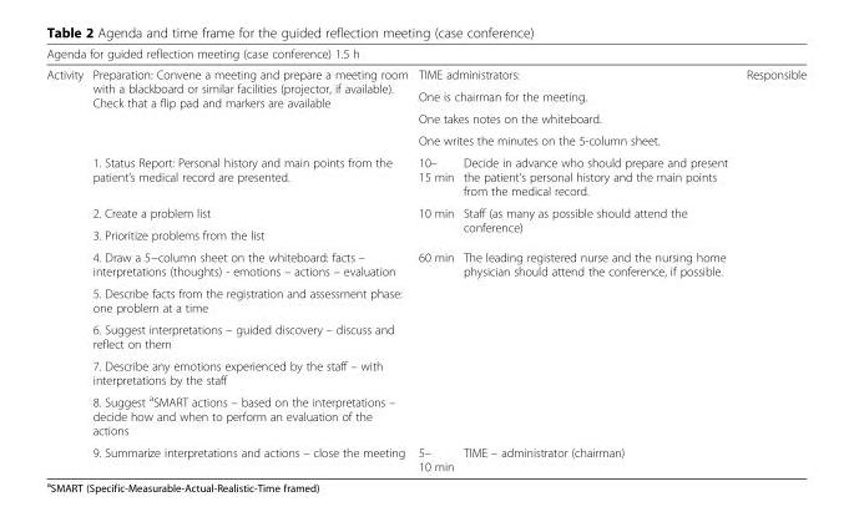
<table><thead><tr><td colspan="5">Agenda for guided reflection meeting (case conference) 1.5 h</td></tr></thead><tbody><tr><td rowspan="13">Activity</td><td rowspan="4">Preparation: Convene a meeting and prepare a meeting room with a blackboard or similar facilities (projector, if available). Check that a flip pad and markers are available</td><td colspan="2">TIME administrators:</td><td rowspan="13">Responsible</td></tr><tr><td colspan="2">One is chairman for the meeting.</td></tr><tr><td colspan="2">One takes notes on the whiteboard.</td></tr><tr><td colspan="2">One writes the minutes on the 5-column sheet.</td></tr><tr><td>1. Status Report: Personal history and main points from the patient’s medical record are presented.</td><td>10– 15 min</td><td>Decide in advance who should prepare and present the patient’s personal history and the main points from the medical record.</td></tr><tr><td>2. Create a problem list</td><td rowspan="2">10 min</td><td rowspan="2">Staff (as many as possible should attend the conference)</td></tr><tr><td>3. Prioritize problems from the list</td></tr><tr><td>4. Draw a 5−column sheet on the whiteboard: facts – interpretations (thoughts) - emotions – actions – evaluation</td><td rowspan="5">60 min</td><td rowspan="5">The leading registered nurse and the nursing home physician should attend the conference, if possible.</td></tr><tr><td>5. Describe facts from the registration and assessment phase: one problem at a time</td></tr><tr><td>6. Suggest interpretations – guided discovery – discuss and reflect on them</td></tr><tr><td>7. Describe any emotions experienced by the staff – with interpretations by the staff</td></tr><tr><td>8. Suggest <sup>a</sup>SMART actions – based on the interpretations – decide how and when to perform an evaluation of the actions</td></tr><tr><td>9. Summarize interpretations and actions – close the meeting</td><td>5– 10 min</td><td>TIME – administrator (chairman)</td></tr></tbody></table>